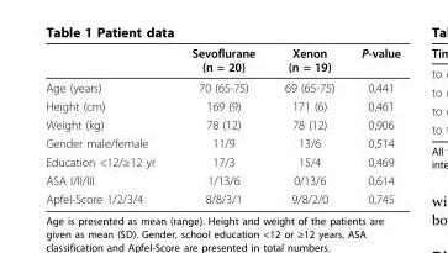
<table><thead><tr><td></td><td>Sevoflurane (n = 20)</td><td>Xenon (n = 19)</td><td>P-value</td></tr></thead><tbody><tr><td>Age (years)</td><td>70 (65-75)</td><td>69 (65-75)</td><td>0,441</td></tr><tr><td>Height (cm)</td><td>169 (9)</td><td>171 (6)</td><td>0,461</td></tr><tr><td>Weight (kg)</td><td>78 (12)</td><td>78 (12)</td><td>0,906</td></tr><tr><td>Gender male/female</td><td>11/9</td><td>13/6</td><td>0,514</td></tr><tr><td>Education &lt;12/≥12 yr</td><td>17/3</td><td>15/4</td><td>0,469</td></tr><tr><td>ASA I/II/III</td><td>1/13/6</td><td>0/13/6</td><td>0,614</td></tr><tr><td>Apfel-Score 1/2/3/4</td><td>8/8/3/1</td><td>9/8/2/0</td><td>0,745</td></tr></tbody></table>